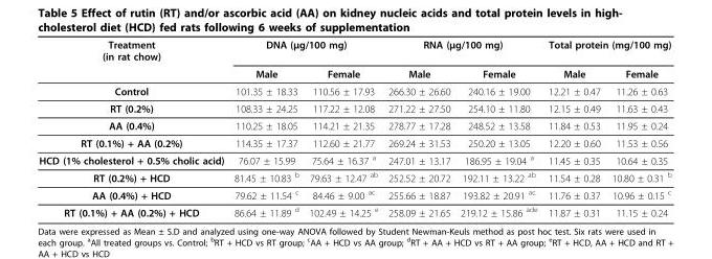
<table><thead><tr><td rowspan="2">Treatment (in rat chow)</td><td colspan="2">DNA (μg/100 mg)</td><td colspan="2">RNA (μg/100 mg)</td><td colspan="2">Total protein (mg/100 mg)</td></tr><tr><td>Male</td><td>Female</td><td>Male</td><td>Female</td><td>Male</td><td>Female</td></tr></thead><tbody><tr><td>Control</td><td>101.35 ± 18.33</td><td>110.56 ± 17.93</td><td>266.30 ± 26.60</td><td>240.16 ± 19.00</td><td>12.21 ± 0.47</td><td>11.26 ± 0.63</td></tr><tr><td>RT (0.2%)</td><td>108.33 ± 24.25</td><td>117.22 ± 12.08</td><td>271.22 ± 27.50</td><td>254.10 ± 11.80</td><td>12.15 ± 0.49</td><td>11.63 ± 0.43</td></tr><tr><td>AA (0.4%)</td><td>110.25 ± 18.05</td><td>114.21 ± 21.35</td><td>278.77 ± 17.28</td><td>248.52 ± 13.58</td><td>11.84 ± 0.53</td><td>11.95 ± 0.24</td></tr><tr><td>RT (0.1%) + AA (0.2%)</td><td>114.35 ± 17.37</td><td>112.60 ± 21.77</td><td>269.24 ± 31.53</td><td>250.20 ± 13.05</td><td>12.20 ± 0.60</td><td>11.53 ± 0.56</td></tr><tr><td>HCD (1% cholesterol + 0.5% cholic acid)</td><td>76.07 ± 15.99</td><td>75.64 ± 16.37 <sup>a</sup></td><td>247.01 ± 13.17</td><td>186.95 ± 19.04 <sup>a</sup></td><td>11.45 ± 0.35</td><td>10.64 ± 0.35</td></tr><tr><td>RT (0.2%) + HCD</td><td>81.45 ± 10.83 <sup>b</sup></td><td>79.63 ± 12.47 <sup>ab</sup></td><td>252.52 ± 20.72</td><td>192.11 ± 13.22 <sup>ab</sup></td><td>11.54 ± 0.28</td><td>10.80 ± 0.31 <sup>b</sup></td></tr><tr><td>AA (0.4%) + HCD</td><td>79.62 ± 11.54 <sup>c</sup></td><td>84.46 ± 9.00 <sup>ac</sup></td><td>255.66 ± 18.87</td><td>193.82 ± 20.91 <sup>ac</sup></td><td>11.76 ± 0.37</td><td>10.96 ± 0.15 <sup>c</sup></td></tr><tr><td>RT (0.1%) + AA (0.2%) + HCD</td><td>86.64 ± 11.89 <sup>d</sup></td><td>102.49 ± 14.25 <sup>e</sup></td><td>258.09 ± 21.65</td><td>219.12 ± 15.86 <sup>ade</sup></td><td>11.87 ± 0.31</td><td>11.15 ± 0.24</td></tr></tbody></table>